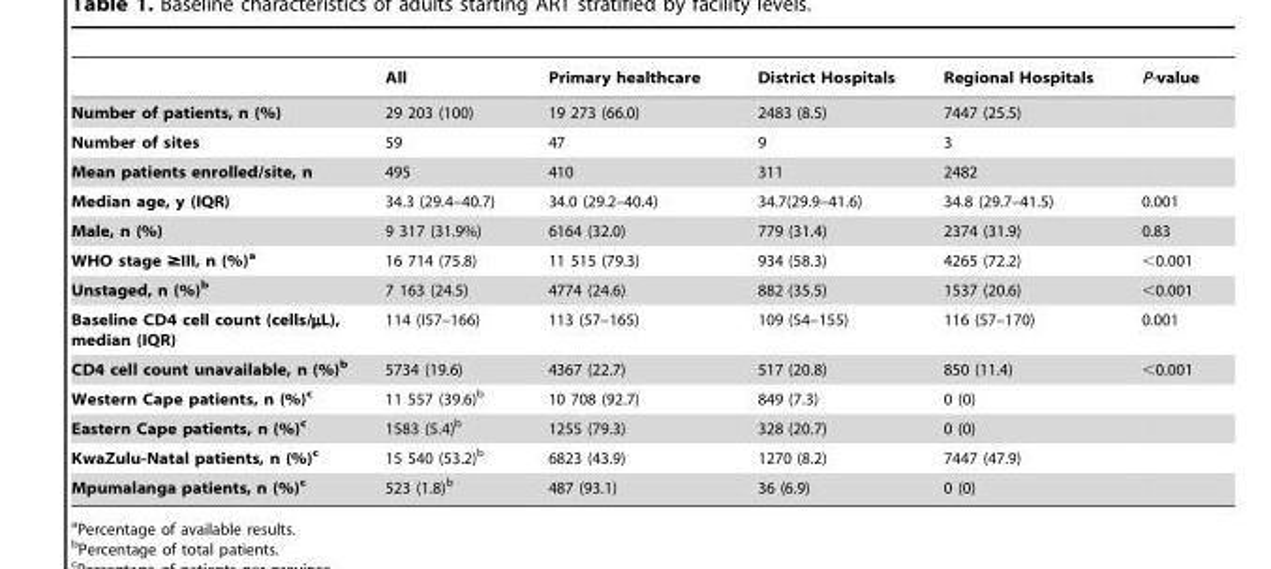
<table><thead><tr><td></td><td>All</td><td>Primary healthcare</td><td>District Hospitals</td><td>Regional Hospitals</td><td>P-value</td></tr></thead><tbody><tr><td>Number of patients, n (%)</td><td>29 203 (100)</td><td>19 273 (66.0)</td><td>2483 (8.5)</td><td>7447 (25.5)</td><td></td></tr><tr><td>Number of sites</td><td>59</td><td>47</td><td>9</td><td>3</td><td></td></tr><tr><td>Mean patients enrolled/site, n</td><td>495</td><td>410</td><td>311</td><td>2482</td><td></td></tr><tr><td>Median age, y (IQR)</td><td>34.3 (29.4–40.7)</td><td>34.0 (29.2–40.4)</td><td>34.7(29.9–41.6)</td><td>34.8 (29.7–41.5)</td><td>0.001</td></tr><tr><td>Male, n (%)</td><td>9 317 (31.9%)</td><td>6164 (32.0)</td><td>779 (31.4)</td><td>2374 (31.9)</td><td>0.83</td></tr><tr><td>WHO stage ≥III, n (%)a</td><td>16 714 (75.8)</td><td>11 515 (79.3)</td><td>934 (58.3)</td><td>4265 (72.2)</td><td>&lt;0.001</td></tr><tr><td>Unstaged, n (%)b</td><td>7 163 (24.5)</td><td>4774 (24.6)</td><td>882 (35.5)</td><td>1537 (20.6)</td><td>&lt;0.001</td></tr><tr><td>Baseline CD4 cell count (cells/µL), median (IQR)</td><td>114 (I57–166)</td><td>113 (57–165)</td><td>109 (54–155)</td><td>116 (57–170)</td><td>0.001</td></tr><tr><td>CD4 cell count unavailable, n (%)b</td><td>5734 (19.6)</td><td>4367 (22.7)</td><td>517 (20.8)</td><td>850 (11.4)</td><td>&lt;0.001</td></tr><tr><td>Western Cape patients, n (%)c</td><td>11 557 (39.6)<sup>b</sup></td><td>10 708 (92.7)</td><td>849 (7.3)</td><td>0 (0)</td><td></td></tr><tr><td>Eastern Cape patients, n (%)c</td><td>1583 (5.4)<sup>b</sup></td><td>1255 (79.3)</td><td>328 (20.7)</td><td>0 (0)</td><td></td></tr><tr><td>KwaZulu-Natal patients, n (%)c</td><td>15 540 (53.2)<sup>b</sup></td><td>6823 (43.9)</td><td>1270 (8.2)</td><td>7447 (47.9)</td><td></td></tr><tr><td>Mpumalanga patients, n (%)c</td><td>523 (1.8)<sup>b</sup></td><td>487 (93.1)</td><td>36 (6.9)</td><td>0 (0)</td><td></td></tr></tbody></table>